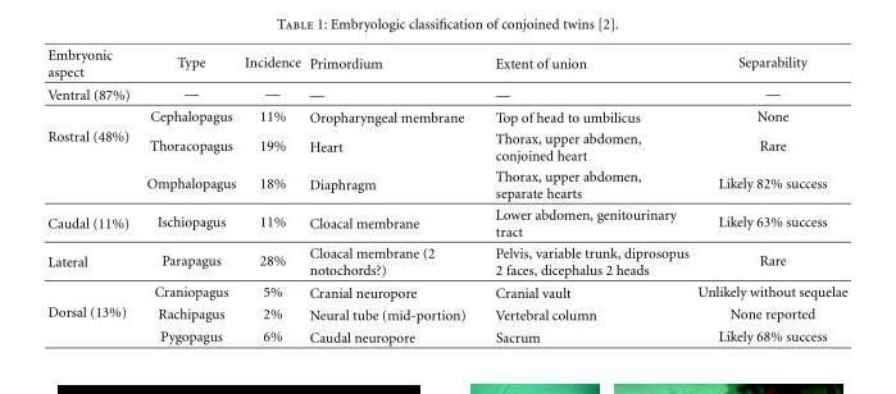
<table><thead><tr><td>Embryonic aspect</td><td>Type</td><td>Incidence</td><td>Primordium</td><td>Extent of union</td><td>Separability</td></tr></thead><tbody><tr><td>Ventral (87%)</td><td>—</td><td>—</td><td>—</td><td>—</td><td>—</td></tr><tr><td rowspan="3">Rostral (48%)</td><td>Cephalopagus</td><td>11%</td><td>Oropharyngeal membrane</td><td>Top of head to umbilicus</td><td>None</td></tr><tr><td>Thoracopagus</td><td>19%</td><td>Heart</td><td>Thorax, upper abdomen, conjoined heart</td><td>Rare</td></tr><tr><td>Omphalopagus</td><td>18%</td><td>Diaphragm</td><td>Thorax, upper abdomen, separate hearts</td><td>Likely 82% success</td></tr><tr><td>Caudal (11%)</td><td>Ischiopagus</td><td>11%</td><td>Cloacal membrane</td><td>Lower abdomen, genitourinary tract</td><td>Likely 63% success</td></tr><tr><td>Lateral</td><td>Parapagus</td><td>28%</td><td>Cloacal membrane (2 notochords?)</td><td>Pelvis, variable trunk, diprosopus 2 faces, dicephalus 2 heads</td><td>Rare</td></tr><tr><td rowspan="3">Dorsal (13%)</td><td>Craniopagus</td><td>5%</td><td>Cranial neuropore</td><td>Cranial vault</td><td>Unlikely without sequelae</td></tr><tr><td>Rachipagus</td><td>2%</td><td>Neural tube (mid-portion)</td><td>Vertebral column</td><td>None reported</td></tr><tr><td>Pygopagus</td><td>6%</td><td>Caudal neuropore</td><td>Sacrum</td><td>Likely 68% success</td></tr></tbody></table>